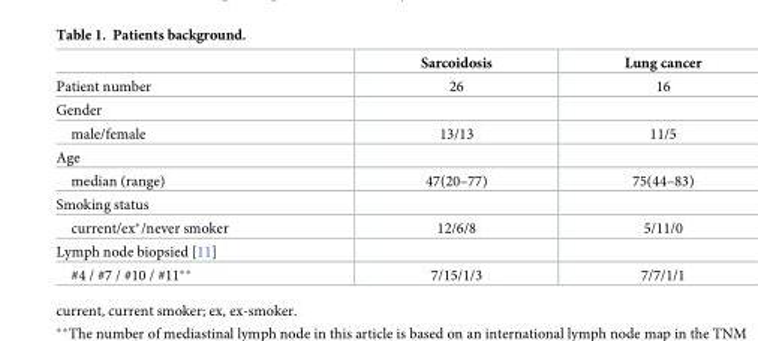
<table><thead><tr><td></td><td>Sarcoidosis</td><td>Lung cancer</td></tr></thead><tbody><tr><td>Patient number</td><td>26</td><td>16</td></tr><tr><td colspan="3">Gender</td></tr><tr><td>male/female</td><td>13/13</td><td>11/5</td></tr><tr><td colspan="3">Age</td></tr><tr><td>median (range)</td><td>47(20–77)</td><td>75(44–83)</td></tr><tr><td colspan="3">Smoking status</td></tr><tr><td>current/ex*/never smoker</td><td>12/6/8</td><td>5/11/0</td></tr><tr><td colspan="3">Lymph node biopsied [11]</td></tr><tr><td>#4 / #7 / #10 / #11**</td><td>7/15/1/3</td><td>7/7/1/1</td></tr></tbody></table>